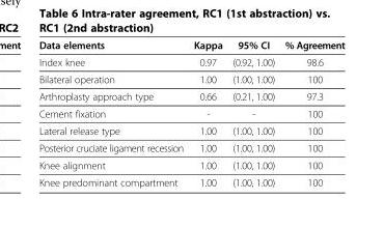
<table><thead><tr><td>Data elements</td><td>Kappa</td><td>95% CI</td><td>% Agreement</td></tr></thead><tbody><tr><td>Index knee</td><td>0.97</td><td>(0.92, 1.00)</td><td>98.6</td></tr><tr><td>Bilateral operation</td><td>1.00</td><td>(1.00, 1.00)</td><td>100</td></tr><tr><td>Arthroplasty approach type</td><td>0.66</td><td>(0.21, 1.00)</td><td>97.3</td></tr><tr><td>Cement fixation</td><td>-</td><td>-</td><td>100</td></tr><tr><td>Lateral release type</td><td>1.00</td><td>(1.00, 1.00)</td><td>100</td></tr><tr><td>Posterior cruciate ligament recession</td><td>1.00</td><td>(1.00, 1.00)</td><td>100</td></tr><tr><td>Knee alignment</td><td>1.00</td><td>(1.00, 1.00)</td><td>100</td></tr><tr><td>Knee predominant compartment</td><td>1.00</td><td>(1.00, 1.00)</td><td>100</td></tr></tbody></table>